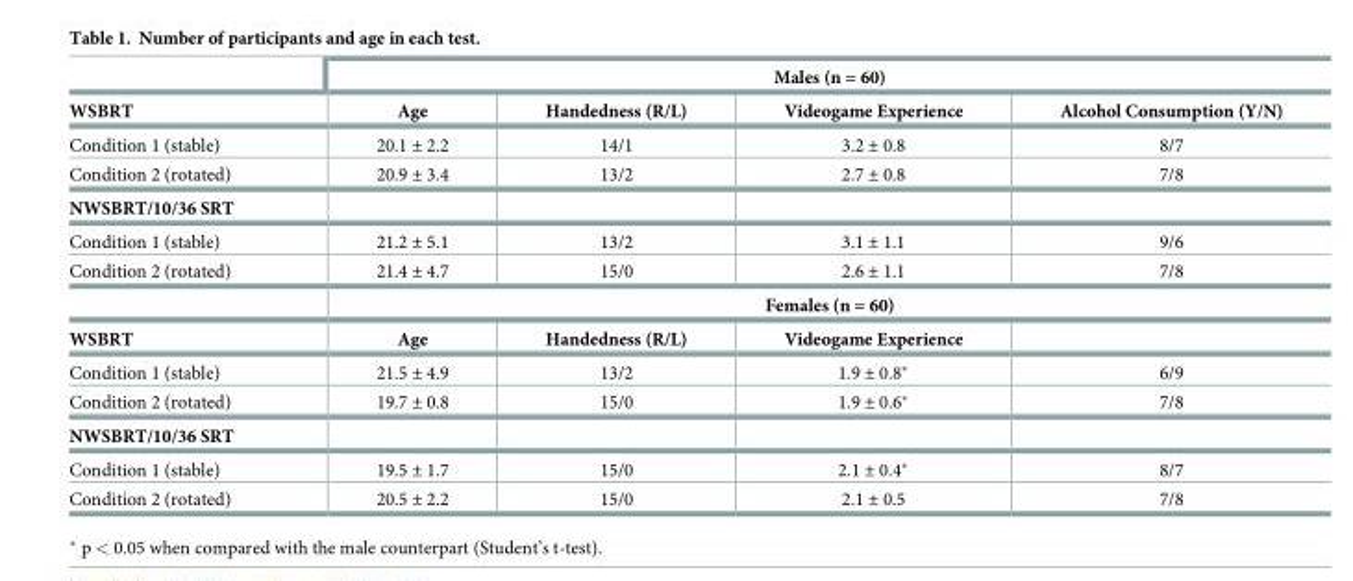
<table><thead><tr><td rowspan="2">WSBRT</td><td colspan="4">Males (n = 60)</td></tr><tr><td>Age</td><td>Handedness (R/L)</td><td>Videogame Experience</td><td>Alcohol Consumption (Y/N)</td></tr></thead><tbody><tr><td>Condition 1 (stable)</td><td>20.1 ± 2.2</td><td>14/1</td><td>3.2 ± 0.8</td><td>8/7</td></tr><tr><td>Condition 2 (rotated)</td><td>20.9 ± 3.4</td><td>13/2</td><td>2.7 ± 0.8</td><td>7/8</td></tr><tr><td colspan="5">NWSBRT/10/36 SRT</td></tr><tr><td>Condition 1 (stable)</td><td>21.2 ± 5.1</td><td>13/2</td><td>3.1 ± 1.1</td><td>9/6</td></tr><tr><td rowspan="2">Condition 2 (rotated)</td><td>21.4 ± 4.7</td><td>15/0</td><td>2.6 ± 1.1</td><td>7/8</td></tr><tr><td colspan="4">Females (n = 60)</td></tr><tr><td>WSBRT</td><td>Age</td><td>Handedness (R/L)</td><td>Videogame Experience</td><td></td></tr><tr><td>Condition 1 (stable)</td><td>21.5 ± 4.9</td><td>13/2</td><td>1.9 ± 0.8*</td><td>6/9</td></tr><tr><td>Condition 2 (rotated)</td><td>19.7 ± 0.8</td><td>15/0</td><td>1.9 ± 0.6*</td><td>7/8</td></tr><tr><td colspan="5">NWSBRT/10/36 SRT</td></tr><tr><td>Condition 1 (stable)</td><td>19.5 ± 1.7</td><td>15/0</td><td>2.1 ± 0.4*</td><td>8/7</td></tr><tr><td>Condition 2 (rotated)</td><td>20.5 ± 2.2</td><td>15/0</td><td>2.1 ± 0.5</td><td>7/8</td></tr></tbody></table>